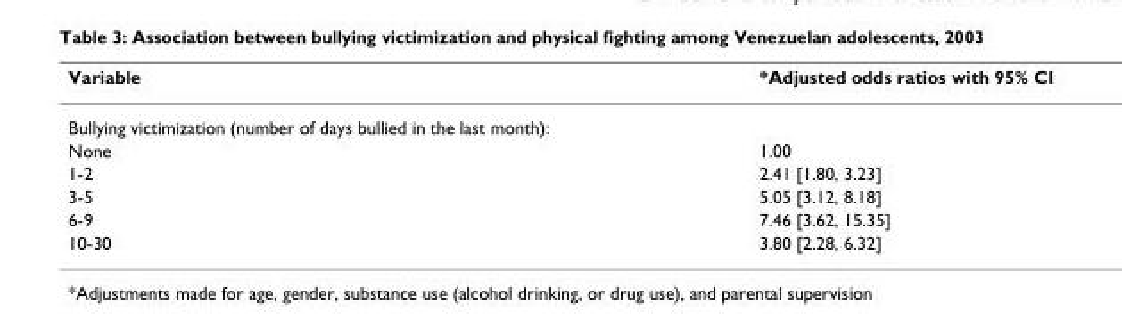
<table><thead><tr><td>Variable</td><td>*Adjusted odds ratios with 95% CI</td></tr></thead><tbody><tr><td colspan="2">Bullying victimization (number of days bullied in the last month):</td></tr><tr><td>None</td><td>1.00</td></tr><tr><td>1-2</td><td>2.41 [1.80, 3.23]</td></tr><tr><td>3-5</td><td>5.05 [3.12, 8.18]</td></tr><tr><td>6-9</td><td>7.46 [3.62, 15.35]</td></tr><tr><td>10-30</td><td>3.80 [2.28, 6.32]</td></tr></tbody></table>